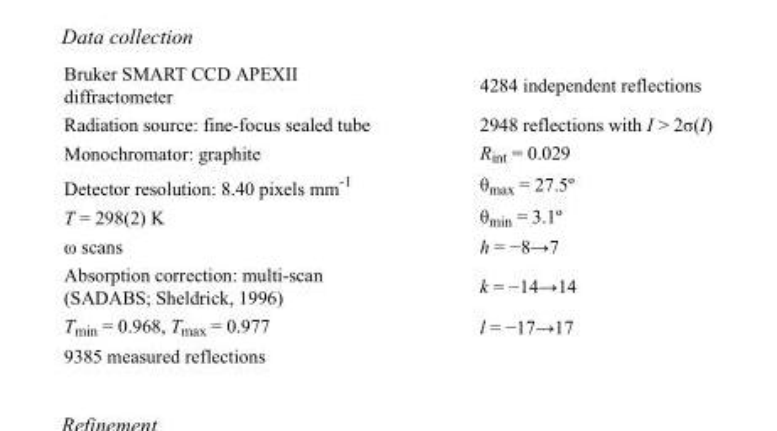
<table><tbody><tr><td>Bruker SMART CCD APEXII diffractometer</td><td>4284 independent reflections</td></tr><tr><td>Radiation source: fine-focus sealed tube</td><td>2948 reflections with I &gt; 2σ(I)</td></tr><tr><td>Monochromator: graphite</td><td>R<sub>int</sub> = 0.029</td></tr><tr><td>Detector resolution: 8.40 pixels mm<sup>-1</sup></td><td>θ<sub>max</sub> = 27.5º</td></tr><tr><td>T = 298(2) K</td><td>θ<sub>min</sub> = 3.1º</td></tr><tr><td>ω scans</td><td>h = −8→7</td></tr><tr><td>Absorption correction: multi-scan (SADABS; Sheldrick, 1996)</td><td>k = −14→14</td></tr><tr><td>T<sub>min</sub> = 0.968, T<sub>max</sub> = 0.977</td><td>l = −17→17</td></tr><tr><td>9385 measured reflections</td><td></td></tr></tbody></table>